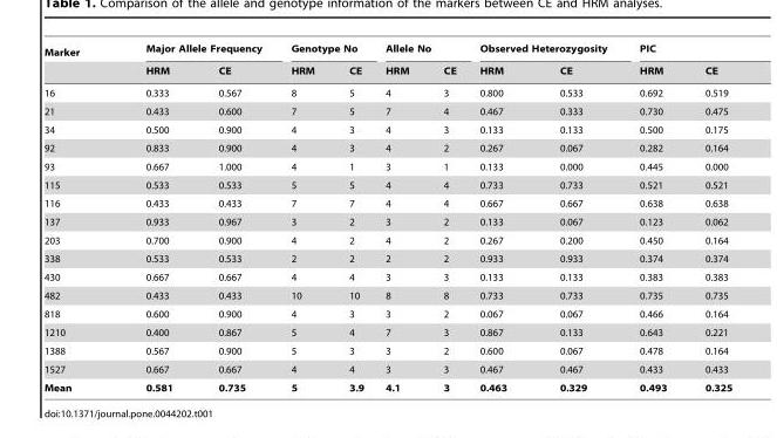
<table><thead><tr><td rowspan="2">Marker</td><td colspan="2">Major Allele Frequency</td><td colspan="2">Genotype No</td><td colspan="2">Allele No</td><td colspan="2">Observed Heterozygosity</td><td colspan="2">PIC</td></tr><tr><td>HRM</td><td>CE</td><td>HRM</td><td>CE</td><td>HRM</td><td>CE</td><td>HRM</td><td>CE</td><td>HRM</td><td>CE</td></tr></thead><tbody><tr><td>16</td><td>0.333</td><td>0.567</td><td>8</td><td>5</td><td>4</td><td>3</td><td>0.800</td><td>0.533</td><td>0.692</td><td>0.519</td></tr><tr><td>21</td><td>0.433</td><td>0.600</td><td>7</td><td>5</td><td>7</td><td>4</td><td>0.467</td><td>0.333</td><td>0.730</td><td>0.475</td></tr><tr><td>34</td><td>0.500</td><td>0.900</td><td>4</td><td>3</td><td>4</td><td>3</td><td>0.133</td><td>0.133</td><td>0.500</td><td>0.175</td></tr><tr><td>92</td><td>0.833</td><td>0.900</td><td>4</td><td>3</td><td>4</td><td>2</td><td>0.267</td><td>0.067</td><td>0.282</td><td>0.164</td></tr><tr><td>93</td><td>0.667</td><td>1.000</td><td>4</td><td>1</td><td>3</td><td>1</td><td>0.133</td><td>0.000</td><td>0.445</td><td>0.000</td></tr><tr><td>115</td><td>0.533</td><td>0.533</td><td>5</td><td>5</td><td>4</td><td>4</td><td>0.733</td><td>0.733</td><td>0.521</td><td>0.521</td></tr><tr><td>116</td><td>0.433</td><td>0.433</td><td>7</td><td>7</td><td>4</td><td>4</td><td>0.667</td><td>0.667</td><td>0.638</td><td>0.638</td></tr><tr><td>137</td><td>0.933</td><td>0.967</td><td>3</td><td>2</td><td>3</td><td>2</td><td>0.133</td><td>0.067</td><td>0.123</td><td>0.062</td></tr><tr><td>203</td><td>0.700</td><td>0.900</td><td>4</td><td>2</td><td>4</td><td>2</td><td>0.267</td><td>0.200</td><td>0.450</td><td>0.164</td></tr><tr><td>338</td><td>0.533</td><td>0.533</td><td>2</td><td>2</td><td>2</td><td>2</td><td>0.933</td><td>0.933</td><td>0.374</td><td>0.374</td></tr><tr><td>430</td><td>0.667</td><td>0.667</td><td>4</td><td>4</td><td>3</td><td>3</td><td>0.133</td><td>0.133</td><td>0.383</td><td>0.383</td></tr><tr><td>482</td><td>0.433</td><td>0.433</td><td>10</td><td>10</td><td>8</td><td>8</td><td>0.733</td><td>0.733</td><td>0.735</td><td>0.735</td></tr><tr><td>818</td><td>0.600</td><td>0.900</td><td>4</td><td>3</td><td>3</td><td>2</td><td>0.067</td><td>0.067</td><td>0.466</td><td>0.164</td></tr><tr><td>1210</td><td>0.400</td><td>0.867</td><td>5</td><td>4</td><td>7</td><td>3</td><td>0.867</td><td>0.133</td><td>0.643</td><td>0.221</td></tr><tr><td>1388</td><td>0.567</td><td>0.900</td><td>5</td><td>3</td><td>3</td><td>2</td><td>0.600</td><td>0.067</td><td>0.478</td><td>0.164</td></tr><tr><td>1527</td><td>0.667</td><td>0.667</td><td>4</td><td>4</td><td>3</td><td>3</td><td>0.467</td><td>0.467</td><td>0.433</td><td>0.433</td></tr><tr><td>Mean</td><td>0.581</td><td>0.735</td><td>5</td><td>3.9</td><td>4.1</td><td>3</td><td>0.463</td><td>0.329</td><td>0.493</td><td>0.325</td></tr></tbody></table>